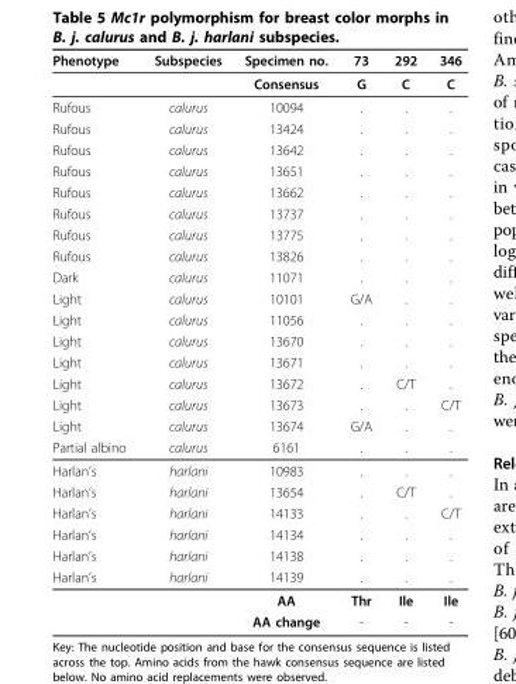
<table><thead><tr><td>Phenotype</td><td>Subspecies</td><td>Specimen no.</td><td>73</td><td>292</td><td>346</td></tr></thead><tbody><tr><td></td><td></td><td>Consensus</td><td>G</td><td>C</td><td>C</td></tr><tr><td>Rufous</td><td>calurus</td><td>10094</td><td>.</td><td>.</td><td>.</td></tr><tr><td>Rufous</td><td>calurus</td><td>13424</td><td>.</td><td>.</td><td>.</td></tr><tr><td>Rufous</td><td>calurus</td><td>13642</td><td>.</td><td>.</td><td>.</td></tr><tr><td>Rufous</td><td>calurus</td><td>13651</td><td>.</td><td>.</td><td>.</td></tr><tr><td>Rufous</td><td>calurus</td><td>13662</td><td>.</td><td>.</td><td>.</td></tr><tr><td>Rufous</td><td>calurus</td><td>13737</td><td>.</td><td>.</td><td>.</td></tr><tr><td>Rufous</td><td>calurus</td><td>13775</td><td>.</td><td>.</td><td>.</td></tr><tr><td>Rufous</td><td>calurus</td><td>13826</td><td>.</td><td>.</td><td>.</td></tr><tr><td>Dark</td><td>calurus</td><td>11071</td><td>.</td><td>.</td><td>.</td></tr><tr><td>Light</td><td>calurus</td><td>10101</td><td>G/A</td><td>.</td><td>.</td></tr><tr><td>Light</td><td>calurus</td><td>11056</td><td>.</td><td>.</td><td>.</td></tr><tr><td>Light</td><td>calurus</td><td>13670</td><td>.</td><td>.</td><td>.</td></tr><tr><td>Light</td><td>calurus</td><td>13671</td><td>.</td><td>.</td><td>.</td></tr><tr><td>Light</td><td>calurus</td><td>13672</td><td>.</td><td>C/T</td><td>.</td></tr><tr><td>Light</td><td>calurus</td><td>13673</td><td>.</td><td>.</td><td>C/T</td></tr><tr><td>Light</td><td>calurus</td><td>13674</td><td>G/A</td><td>.</td><td>.</td></tr><tr><td>Partial albino</td><td>calurus</td><td>6161</td><td>.</td><td>.</td><td>.</td></tr><tr><td>Harlan’s</td><td>harlani</td><td>10983</td><td>.</td><td>.</td><td>.</td></tr><tr><td>Harlan’s</td><td>harlani</td><td>13654</td><td>.</td><td>C/T</td><td>.</td></tr><tr><td>Harlan’s</td><td>harlani</td><td>14133</td><td>.</td><td>.</td><td>C/T</td></tr><tr><td>Harlan’s</td><td>harlani</td><td>14134</td><td>.</td><td>.</td><td>.</td></tr><tr><td>Harlan’s</td><td>harlani</td><td>14138</td><td>.</td><td>.</td><td>.</td></tr><tr><td rowspan="3">Harlan’s</td><td>harlani</td><td>14139</td><td>.</td><td>.</td><td>.</td></tr><tr><td></td><td>AA</td><td>Thr</td><td>Ile</td><td>Ile</td></tr><tr><td></td><td>AA change</td><td>-</td><td>-</td><td>-</td></tr></tbody></table>